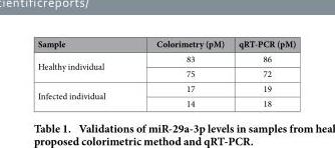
<table><thead><tr><td>Sample</td><td>Colorimetry (pM)</td><td>qRT-PCR (pM)</td></tr></thead><tbody><tr><td rowspan="2">Healthy individual</td><td>83</td><td>86</td></tr><tr><td>75</td><td>72</td></tr><tr><td rowspan="2">Infected individual</td><td>17</td><td>19</td></tr><tr><td>14</td><td>18</td></tr></tbody></table>